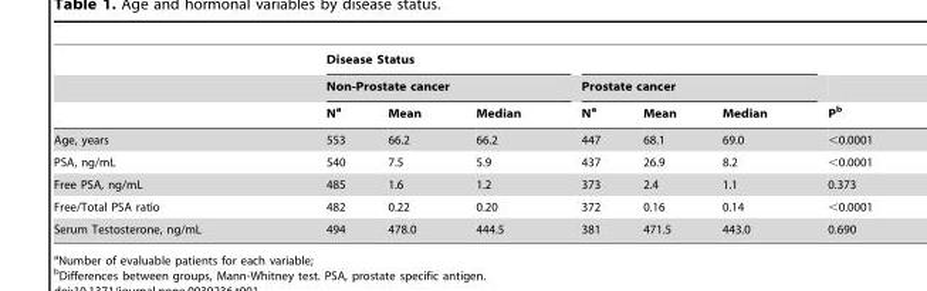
<table><thead><tr><td rowspan="3"></td><td rowspan="2" colspan="3">Disease Status Non-Prostate cancer</td><td></td><td></td><td></td><td rowspan="3">P<sup>b</sup></td></tr><tr><td colspan="3">Prostate cancer</td></tr><tr><td>N<sup>a</sup></td><td>Mean</td><td>Median</td><td>N<sup>a</sup></td><td>Mean</td><td>Median</td></tr></thead><tbody><tr><td>Age, years</td><td>553</td><td>66.2</td><td>66.2</td><td>447</td><td>68.1</td><td>69.0</td><td>&lt;0.0001</td></tr><tr><td>PSA, ng/mL</td><td>540</td><td>7.5</td><td>5.9</td><td>437</td><td>26.9</td><td>8.2</td><td>&lt;0.0001</td></tr><tr><td>Free PSA, ng/mL</td><td>485</td><td>1.6</td><td>1.2</td><td>373</td><td>2.4</td><td>1.1</td><td>0.373</td></tr><tr><td>Free/Total PSA ratio</td><td>482</td><td>0.22</td><td>0.20</td><td>372</td><td>0.16</td><td>0.14</td><td>&lt;0.0001</td></tr><tr><td>Serum Testosterone, ng/mL</td><td>494</td><td>478.0</td><td>444.5</td><td>381</td><td>471.5</td><td>443.0</td><td>0.690</td></tr></tbody></table>